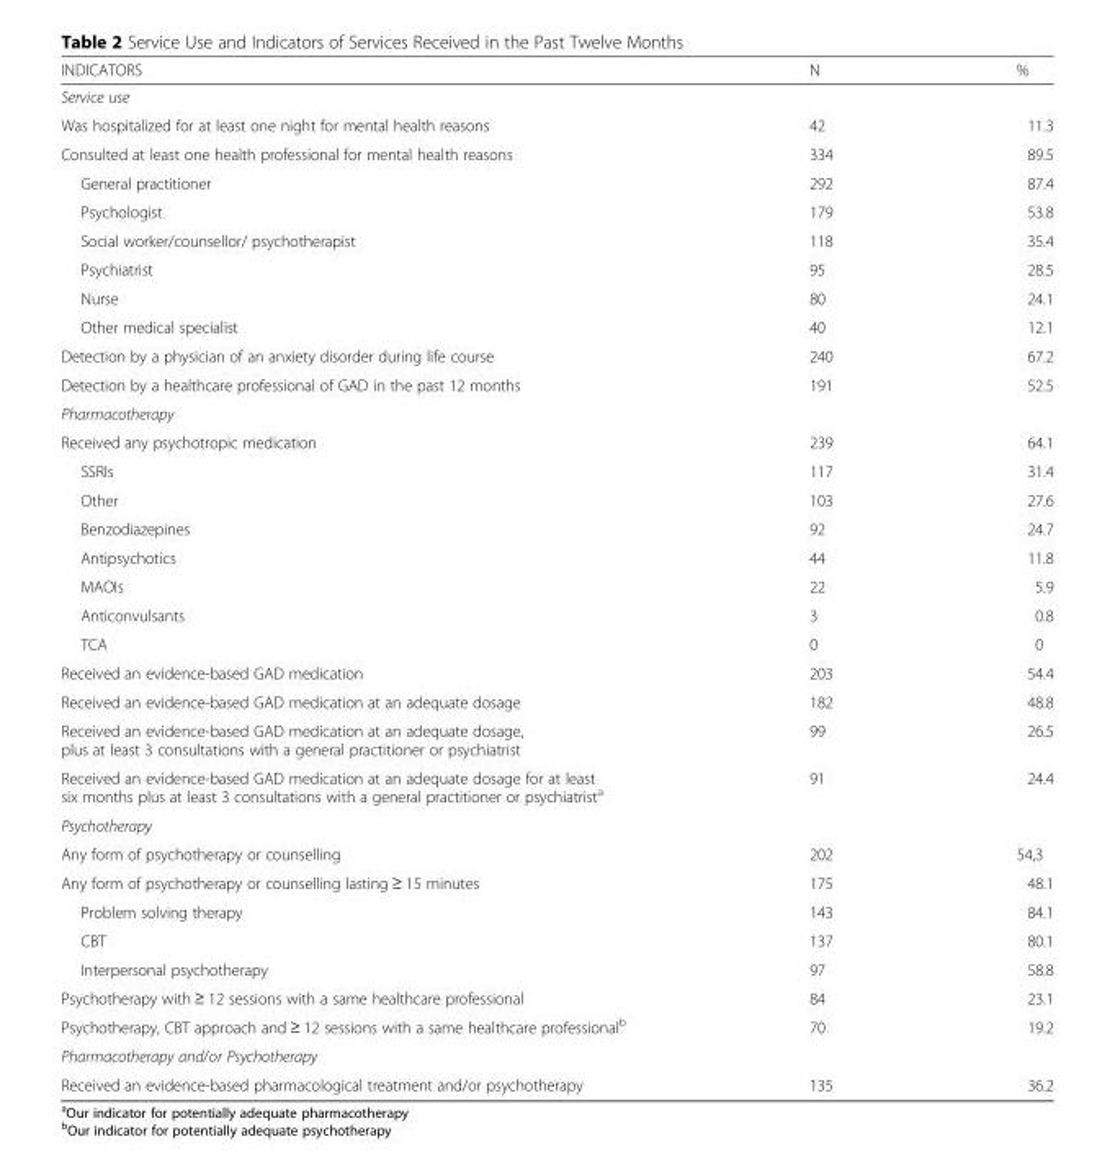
<table><thead><tr><td>INDICATORS</td><td>N</td><td>%</td></tr></thead><tbody><tr><td colspan="3">Service use</td></tr><tr><td>Was hospitalized for at least one night for mental health reasons</td><td>42</td><td>11.3</td></tr><tr><td>Consulted at least one health professional for mental health reasons</td><td>334</td><td>89.5</td></tr><tr><td>General practitioner</td><td>292</td><td>87.4</td></tr><tr><td>Psychologist</td><td>179</td><td>53.8</td></tr><tr><td>Social worker/counsellor/ psychotherapist</td><td>118</td><td>35.4</td></tr><tr><td>Psychiatrist</td><td>95</td><td>28.5</td></tr><tr><td>Nurse</td><td>80</td><td>24.1</td></tr><tr><td>Other medical specialist</td><td>40</td><td>12.1</td></tr><tr><td>Detection by a physician of an anxiety disorder during life course</td><td>240</td><td>67.2</td></tr><tr><td>Detection by a healthcare professional of GAD in the past 12 months</td><td>191</td><td>52.5</td></tr><tr><td colspan="3">Pharmacotherapy</td></tr><tr><td>Received any psychotropic medication</td><td>239</td><td>64.1</td></tr><tr><td>SSRIs</td><td>117</td><td>31.4</td></tr><tr><td>Other</td><td>103</td><td>27.6</td></tr><tr><td>Benzodiazepines</td><td>92</td><td>24.7</td></tr><tr><td>Antipsychotics</td><td>44</td><td>11.8</td></tr><tr><td>MAOIs</td><td>22</td><td>5.9</td></tr><tr><td>Anticonvulsants</td><td>3</td><td>0.8</td></tr><tr><td>TCA</td><td>0</td><td>0</td></tr><tr><td>Received an evidence-based GAD medication</td><td>203</td><td>54.4</td></tr><tr><td>Received an evidence-based GAD medication at an adequate dosage</td><td>182</td><td>48.8</td></tr><tr><td>Received an evidence-based GAD medication at an adequate dosage, plus at least 3 consultations with a general practitioner or psychiatrist</td><td>99</td><td>26.5</td></tr><tr><td>Received an evidence-based GAD medication at an adequate dosage for at least six months plus at least 3 consultations with a general practitioner or psychiatrist<sup>a</sup></td><td>91</td><td>24.4</td></tr><tr><td colspan="3">Psychotherapy</td></tr><tr><td>Any form of psychotherapy or counselling</td><td>202</td><td>54,3</td></tr><tr><td>Any form of psychotherapy or counselling lasting ≥ 15 minutes</td><td>175</td><td>48.1</td></tr><tr><td>Problem solving therapy</td><td>143</td><td>84.1</td></tr><tr><td>CBT</td><td>137</td><td>80.1</td></tr><tr><td>Interpersonal psychotherapy</td><td>97</td><td>58.8</td></tr><tr><td>Psychotherapy with ≥ 12 sessions with a same healthcare professional</td><td>84</td><td>23.1</td></tr><tr><td>Psychotherapy, CBT approach and ≥ 12 sessions with a same healthcare professional<sup>b</sup></td><td>70</td><td>19.2</td></tr><tr><td colspan="3">Pharmacotherapy and/or Psychotherapy</td></tr><tr><td>Received an evidence-based pharmacological treatment and/or psychotherapy</td><td>135</td><td>36.2</td></tr></tbody></table>